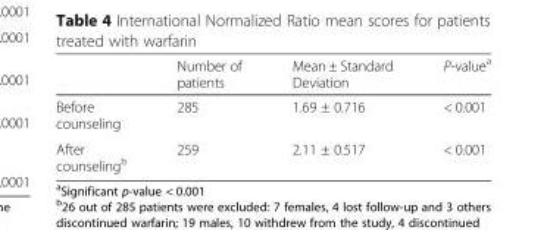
<table><thead><tr><td></td><td>Number of patients</td><td>Mean ± Standard Deviation</td><td>P-value<sup>a</sup></td></tr></thead><tbody><tr><td>Before counseling</td><td>285</td><td>1.69 ± 0.716</td><td>&lt; 0.001</td></tr><tr><td>After counseling<sup>b</sup></td><td>259</td><td>2.11 ± 0.517</td><td>&lt; 0.001</td></tr></tbody></table>